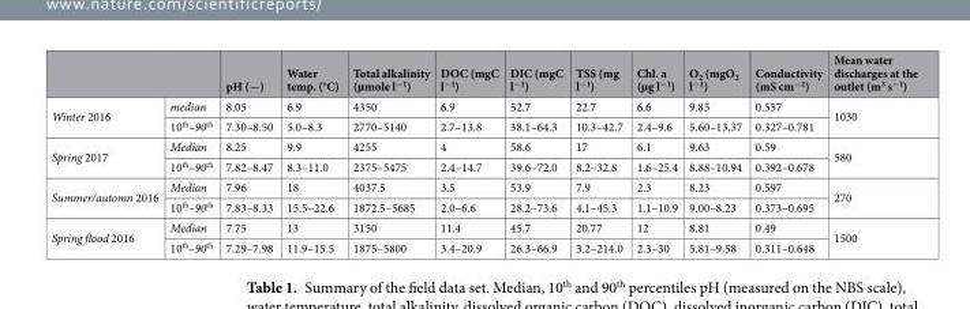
<table><thead><tr><td></td><td></td><td>pH (−)</td><td>Water temp. (°C)</td><td>Total alkalinity (µmole l<sup>−1</sup>)</td><td>DOC (mgC l<sup>−1</sup>)</td><td>DIC (mgC l<sup>−1</sup>)</td><td>TSS (mg l<sup>−1</sup>)</td><td>Chl. a (µg l<sup>−1</sup>)</td><td>O<sub>2</sub> (mgO<sub>2</sub> l<sup>−1</sup>)</td><td>Conductivity (mS cm<sup>−2</sup>)</td><td>Mean water discharges at the outlet (m<sup>3</sup> s<sup>−1</sup>)</td></tr></thead><tbody><tr><td rowspan="2">Winter 2016</td><td>median</td><td>8.05</td><td>6.9</td><td>4350</td><td>6.9</td><td>52.7</td><td>22.7</td><td>6.6</td><td>9.85</td><td>0.557</td><td rowspan="2">1030</td></tr><tr><td>10<sup>th</sup>–90<sup>th</sup></td><td>7.30–8.50</td><td>5.0–8.3</td><td>2770–5140</td><td>2.7–13.8</td><td>38.1–64.3</td><td>10.3–42.7</td><td>2.4–9.6</td><td>5.60–13.37</td><td>0.327–0.781</td></tr><tr><td rowspan="2">Spring 2017</td><td>Median</td><td>8.25</td><td>9.9</td><td>4255</td><td>4</td><td>58.6</td><td>17</td><td>6.1</td><td>9.63</td><td>0.59</td><td rowspan="2">580</td></tr><tr><td>10<sup>th</sup>–90<sup>th</sup></td><td>7.82–8.47</td><td>8.3–11.0</td><td>2375–5475</td><td>2.4–14.7</td><td>39.6–72.0</td><td>8.2–32.8</td><td>1.6–25.4</td><td>8.88–10.94</td><td>0.392–0.678</td></tr><tr><td rowspan="2">Summer/automn 2016</td><td>Median</td><td>7.96</td><td>18</td><td>4037.5</td><td>3.5</td><td>53.9</td><td>7.9</td><td>2.3</td><td>8.23</td><td>0.597</td><td rowspan="2">270</td></tr><tr><td>10<sup>th</sup>–90<sup>th</sup></td><td>7.83–8.33</td><td>15.5–22.6</td><td>1872.5–5685</td><td>2.0–6.6</td><td>28.2–73.6</td><td>4.1–45.3</td><td>1.1–10.9</td><td>9.00–8.23</td><td>0.373–0.695</td></tr><tr><td rowspan="2">Spring flood 2016</td><td>Median</td><td>7.75</td><td>13</td><td>3150</td><td>11.4</td><td>45.7</td><td>20.77</td><td>12</td><td>8.81</td><td>0.49</td><td rowspan="2">1500</td></tr><tr><td>10<sup>th</sup>–90<sup>th</sup></td><td>7.29–7.98</td><td>11.9–15.5</td><td>1875–5800</td><td>3.4–20.9</td><td>26.3–66.9</td><td>3.2–214.0</td><td>2.3–30</td><td>5.81–9.58</td><td>0.311–0.648</td></tr></tbody></table>